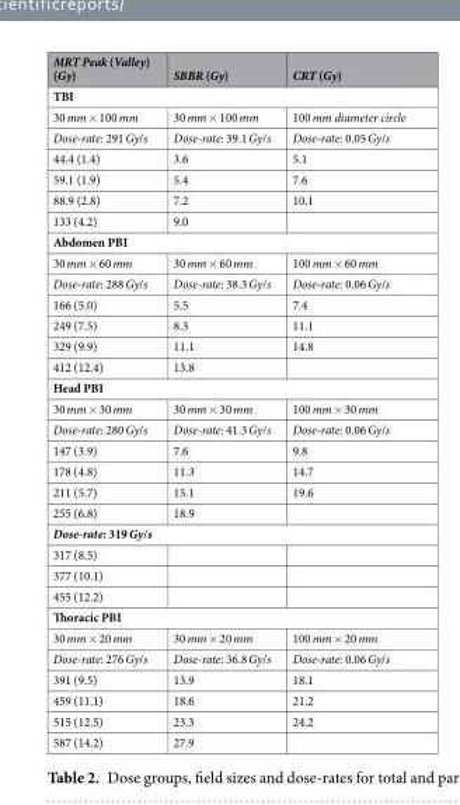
<table><thead><tr><td>MRT Peak (Valley) (Gy)</td><td>SBBR (Gy)</td><td>CRT (Gy)</td></tr></thead><tbody><tr><td colspan="3">TBI</td></tr><tr><td>30 mm × 100 mm</td><td>30 mm × 100 mm</td><td>100 mm diameter circle</td></tr><tr><td>Dose-rate: 291 Gy/s</td><td>Dose-rate: 39.1 Gy/s</td><td>Dose-rate: 0.05 Gy/s</td></tr><tr><td>44.4 (1.4)</td><td>3.6</td><td>5.1</td></tr><tr><td>59.1 (1.9)</td><td>5.4</td><td>7.6</td></tr><tr><td>88.9 (2.8)</td><td>7.2</td><td>10.1</td></tr><tr><td>133 (4.2)</td><td>9.0</td><td></td></tr><tr><td colspan="3">Abdomen PBI</td></tr><tr><td>30 mm × 60 mm</td><td>30 mm × 60 mm</td><td>100 mm × 60 mm</td></tr><tr><td>Dose-rate: 288 Gy/s</td><td>Dose-rate: 38.3 Gy/s</td><td>Dose-rate: 0.06 Gy/s</td></tr><tr><td>166 (5.0)</td><td>5.5</td><td>7.4</td></tr><tr><td>249 (7.5)</td><td>8.3</td><td>11.1</td></tr><tr><td>329 (9.9)</td><td>11.1</td><td>14.8</td></tr><tr><td>412 (12.4)</td><td>13.8</td><td></td></tr><tr><td colspan="3">Head PBI</td></tr><tr><td>30 mm × 30 mm</td><td>30 mm × 30 mm</td><td>100 mm × 30 mm</td></tr><tr><td>Dose-rate: 280 Gy/s</td><td>Dose-rate: 41.3 Gy/s</td><td>Dose-rate: 0.06 Gy/s</td></tr><tr><td>147 (3.9)</td><td>7.6</td><td>9.8</td></tr><tr><td>178 (4.8)</td><td>11.3</td><td>14.7</td></tr><tr><td>211 (5.7)</td><td>15.1</td><td>19.6</td></tr><tr><td>255 (6.8)</td><td>18.9</td><td></td></tr><tr><td colspan="3">Dose-rate: 319 Gy/s</td></tr><tr><td colspan="3">317 (8.5)</td></tr><tr><td colspan="3">377 (10.1)</td></tr><tr><td colspan="3">455 (12.2)</td></tr><tr><td colspan="3">Thoracic PBI</td></tr><tr><td>30 mm × 20 mm</td><td>30 mm × 20 mm</td><td>100 mm × 20 mm</td></tr><tr><td>Dose-rate: 276 Gy/s</td><td>Dose-rate: 36.8 Gy/s</td><td>Dose-rate: 0.06 Gy/s</td></tr><tr><td>391 (9.5)</td><td>13.9</td><td>18.1</td></tr><tr><td>459 (11.1)</td><td>18.6</td><td>21.2</td></tr><tr><td>515 (12.5)</td><td>23.3</td><td>24.2</td></tr><tr><td>587 (14.2)</td><td>27.9</td><td></td></tr></tbody></table>